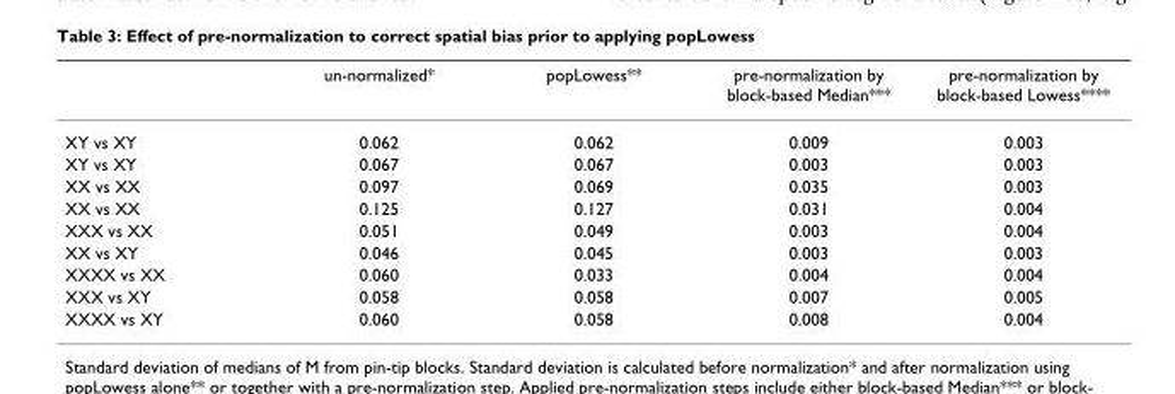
<table><thead><tr><td></td><td>un-normalized*</td><td>popLowess**</td><td>pre-normalization by block-based Median***</td><td>pre-normalization by block-based Lowess****</td></tr></thead><tbody><tr><td>XY vs XY</td><td>0.062</td><td>0.062</td><td>0.009</td><td>0.003</td></tr><tr><td>XY vs XY</td><td>0.067</td><td>0.067</td><td>0.003</td><td>0.003</td></tr><tr><td>XX vs XX</td><td>0.097</td><td>0.069</td><td>0.035</td><td>0.003</td></tr><tr><td>XX vs XX</td><td>0.125</td><td>0.127</td><td>0.031</td><td>0.004</td></tr><tr><td>XXX vs XX</td><td>0.051</td><td>0.049</td><td>0.003</td><td>0.004</td></tr><tr><td>XX vs XY</td><td>0.046</td><td>0.045</td><td>0.003</td><td>0.003</td></tr><tr><td>XXXX vs XX</td><td>0.060</td><td>0.033</td><td>0.004</td><td>0.004</td></tr><tr><td>XXX vs XY</td><td>0.058</td><td>0.058</td><td>0.007</td><td>0.005</td></tr><tr><td>XXXX vs XY</td><td>0.060</td><td>0.058</td><td>0.008</td><td>0.004</td></tr></tbody></table>